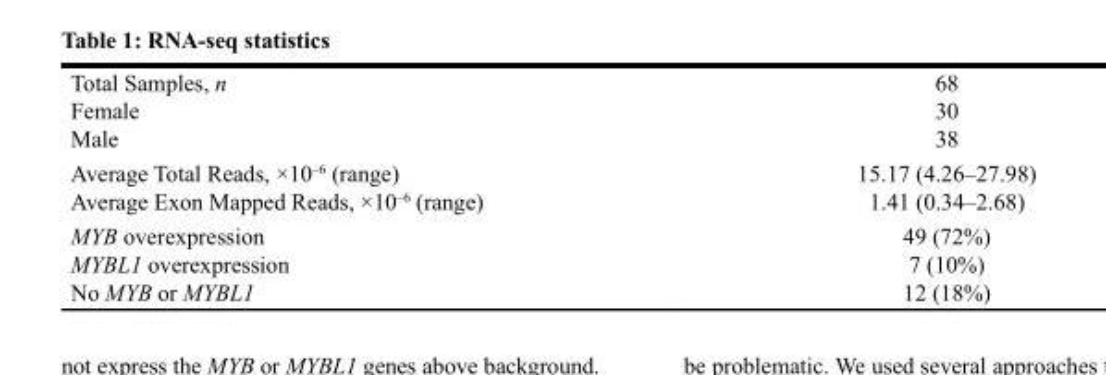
<table><tbody><tr><td>Total Samples, n Female Male</td><td>68 30 38</td></tr><tr><td>Average Total Reads, ×10<sup>–6</sup> (range) Average Exon Mapped Reads, ×10<sup>–6</sup> (range)</td><td>15.17 (4.26–27.98) 1.41 (0.34–2.68)</td></tr><tr><td>MYB overexpression MYBL1 overexpression No MYB or MYBL1</td><td>49 (72%) 7 (10%) 12 (18%)</td></tr></tbody></table>